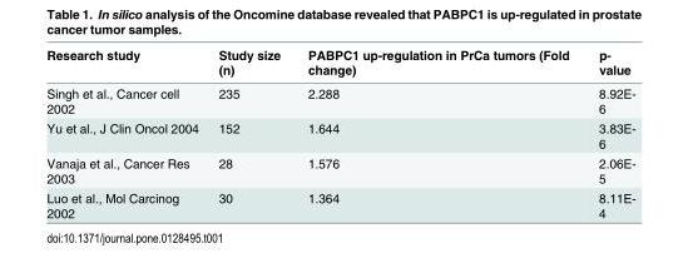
<table><thead><tr><td>Research study</td><td>Study size (n)</td><td>PABPC1 up-regulation in PrCa tumors (Fold change)</td><td>p- value</td></tr></thead><tbody><tr><td>Singh et al., Cancer cell 2002</td><td>235</td><td>2.288</td><td>8.92E- 6</td></tr><tr><td>Yu et al., J Clin Oncol 2004</td><td>152</td><td>1.644</td><td>3.83E- 6</td></tr><tr><td>Vanaja et al., Cancer Res 2003</td><td>28</td><td>1.576</td><td>2.06E- 5</td></tr><tr><td>Luo et al., Mol Carcinog 2002</td><td>30</td><td>1.364</td><td>8.11E- 4</td></tr></tbody></table>